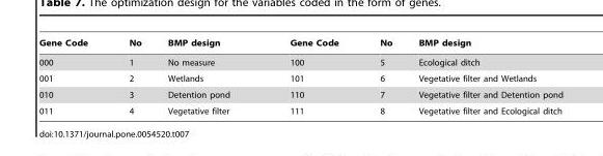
<table><thead><tr><td>Gene Code</td><td>No</td><td>BMP design</td><td>Gene Code</td><td>No</td><td>BMP design</td></tr></thead><tbody><tr><td>000</td><td>1</td><td>No measure</td><td>100</td><td>5</td><td>Ecological ditch</td></tr><tr><td>001</td><td>2</td><td>Wetlands</td><td>101</td><td>6</td><td>Vegetative filter and Wetlands</td></tr><tr><td>010</td><td>3</td><td>Detention pond</td><td>110</td><td>7</td><td>Vegetative filter and Detention pond</td></tr><tr><td>011</td><td>4</td><td>Vegetative filter</td><td>111</td><td>8</td><td>Vegetative filter and Ecological ditch</td></tr></tbody></table>